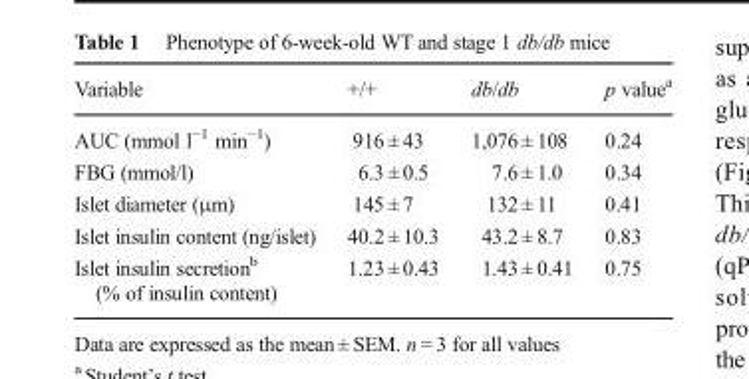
<table><thead><tr><td>Variable</td><td>+/+</td><td>db/db</td><td>p value<sup>a</sup></td></tr></thead><tbody><tr><td>AUC (mmol l<sup>−1</sup> min<sup>−1</sup>)</td><td>916 ± 43</td><td>1,076 ± 108</td><td>0.24</td></tr><tr><td>FBG (mmol/l)</td><td>6.3 ± 0.5</td><td>7.6 ± 1.0</td><td>0.34</td></tr><tr><td>Islet diameter (μm)</td><td>145 ± 7</td><td>132 ± 11</td><td>0.41</td></tr><tr><td>Islet insulin content (ng/islet)</td><td>40.2 ± 10.3</td><td>43.2 ± 8.7</td><td>0.83</td></tr><tr><td>Islet insulin secretion<sup>b</sup> (% of insulin content)</td><td>1.23 ± 0.43</td><td>1.43 ± 0.41</td><td>0.75</td></tr></tbody></table>